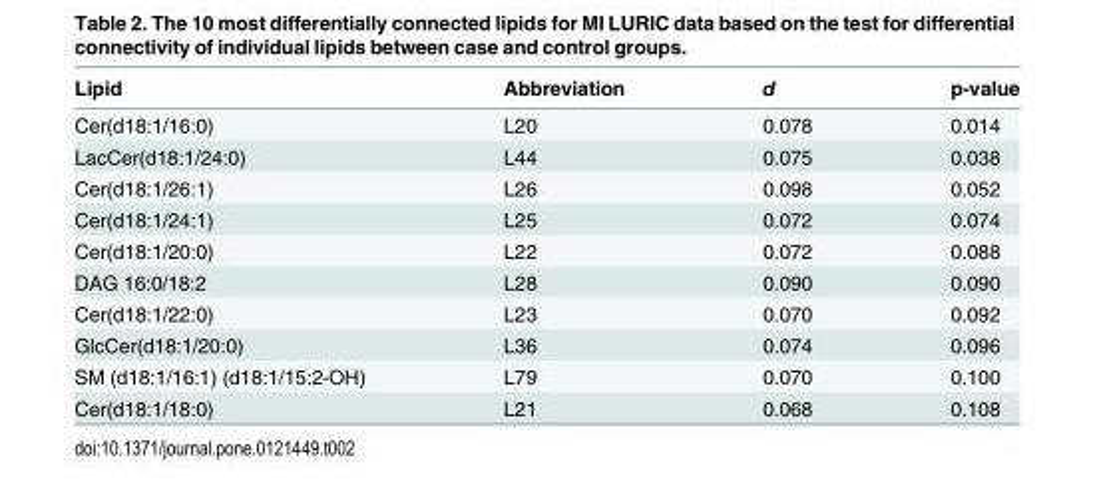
<table><thead><tr><td>Lipid</td><td>Abbreviation</td><td>d</td><td>p-value</td></tr></thead><tbody><tr><td>Cer(d18:1/16:0)</td><td>L20</td><td>0.078</td><td>0.014</td></tr><tr><td>LacCer(d18:1/24:0)</td><td>L44</td><td>0.075</td><td>0.038</td></tr><tr><td>Cer(d18:1/26:1)</td><td>L26</td><td>0.098</td><td>0.052</td></tr><tr><td>Cer(d18:1/24:1)</td><td>L25</td><td>0.072</td><td>0.074</td></tr><tr><td>Cer(d18:1/20:0)</td><td>L22</td><td>0.072</td><td>0.088</td></tr><tr><td>DAG 16:0/18:2</td><td>L28</td><td>0.090</td><td>0.090</td></tr><tr><td>Cer(d18:1/22:0)</td><td>L23</td><td>0.070</td><td>0.092</td></tr><tr><td>GlcCer(d18:1/20:0)</td><td>L36</td><td>0.074</td><td>0.096</td></tr><tr><td>SM (d18:1/16:1) (d18:1/15:2-OH)</td><td>L79</td><td>0.070</td><td>0.100</td></tr><tr><td>Cer(d18:1/18:0)</td><td>L21</td><td>0.068</td><td>0.108</td></tr></tbody></table>